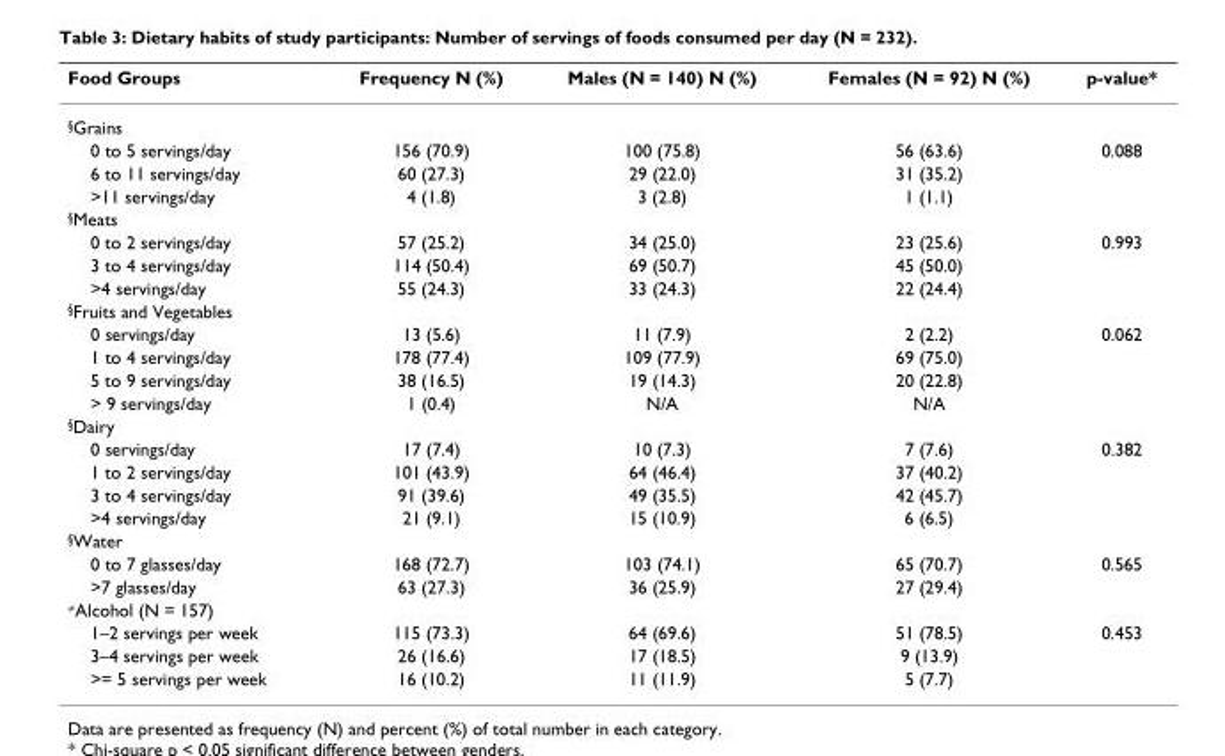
<table><thead><tr><td>Food Groups</td><td>Frequency N (%)</td><td>Males (N = 140) N (%)</td><td>Females (N = 92) N (%)</td><td>p-value*</td></tr></thead><tbody><tr><td colspan="5"><sup>§</sup>Grains</td></tr><tr><td>0 to 5 servings/day</td><td>156 (70.9)</td><td>100 (75.8)</td><td>56 (63.6)</td><td>0.088</td></tr><tr><td>6 to 11 servings/day</td><td>60 (27.3)</td><td>29 (22.0)</td><td>31 (35.2)</td><td></td></tr><tr><td>&gt;11 servings/day</td><td>4 (1.8)</td><td>3 (2.8)</td><td>1 (1.1)</td><td></td></tr><tr><td colspan="5"><sup>§</sup>Meats</td></tr><tr><td>0 to 2 servings/day</td><td>57 (25.2)</td><td>34 (25.0)</td><td>23 (25.6)</td><td>0.993</td></tr><tr><td>3 to 4 servings/day</td><td>114 (50.4)</td><td>69 (50.7)</td><td>45 (50.0)</td><td></td></tr><tr><td>&gt;4 servings/day</td><td>55 (24.3)</td><td>33 (24.3)</td><td>22 (24.4)</td><td></td></tr><tr><td colspan="5"><sup>§</sup>Fruits and Vegetables</td></tr><tr><td>0 servings/day</td><td>13 (5.6)</td><td>11 (7.9)</td><td>2 (2.2)</td><td>0.062</td></tr><tr><td>1 to 4 servings/day</td><td>178 (77.4)</td><td>109 (77.9)</td><td>69 (75.0)</td><td></td></tr><tr><td>5 to 9 servings/day</td><td>38 (16.5)</td><td>19 (14.3)</td><td>20 (22.8)</td><td></td></tr><tr><td>&gt; 9 servings/day</td><td>1 (0.4)</td><td>N/A</td><td>N/A</td><td></td></tr><tr><td colspan="5"><sup>§</sup>Dairy</td></tr><tr><td>0 servings/day</td><td>17 (7.4)</td><td>10 (7.3)</td><td>7 (7.6)</td><td>0.382</td></tr><tr><td>1 to 2 servings/day</td><td>101 (43.9)</td><td>64 (46.4)</td><td>37 (40.2)</td><td></td></tr><tr><td>3 to 4 servings/day</td><td>91 (39.6)</td><td>49 (35.5)</td><td>42 (45.7)</td><td></td></tr><tr><td>&gt;4 servings/day</td><td>21 (9.1)</td><td>15 (10.9)</td><td>6 (6.5)</td><td></td></tr><tr><td colspan="5"><sup>§</sup>Water</td></tr><tr><td>0 to 7 glasses/day</td><td>168 (72.7)</td><td>103 (74.1)</td><td>65 (70.7)</td><td>0.565</td></tr><tr><td>&gt;7 glasses/day</td><td>63 (27.3)</td><td>36 (25.9)</td><td>27 (29.4)</td><td></td></tr><tr><td colspan="5"><sup>≠</sup>Alcohol (N = 157)</td></tr><tr><td>1–2 servings per week</td><td>115 (73.3)</td><td>64 (69.6)</td><td>51 (78.5)</td><td>0.453</td></tr><tr><td>3–4 servings per week</td><td>26 (16.6)</td><td>17 (18.5)</td><td>9 (13.9)</td><td></td></tr><tr><td>&gt;= 5 servings per week</td><td>16 (10.2)</td><td>11 (11.9)</td><td>5 (7.7)</td><td></td></tr></tbody></table>